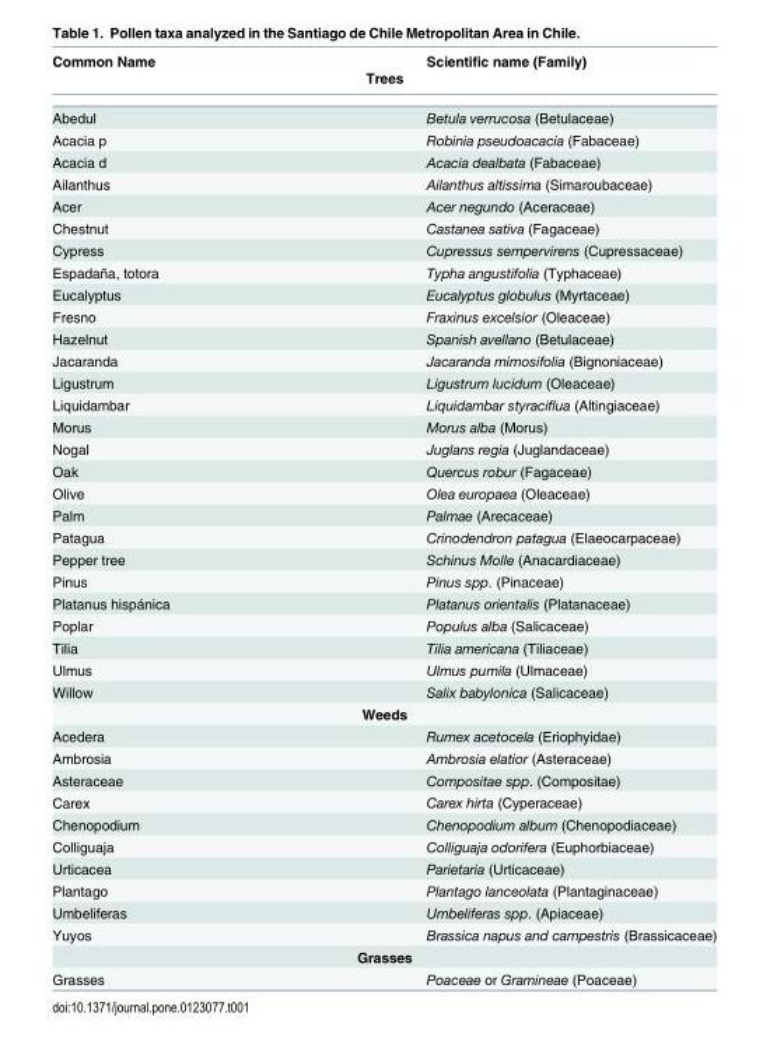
<table><thead><tr><td>Common Name</td><td>Scientific name (Family)</td></tr><tr><td colspan="2">Trees</td></tr></thead><tbody><tr><td>Abedul</td><td>Betula verrucosa (Betulaceae)</td></tr><tr><td>Acacia p</td><td>Robinia pseudoacacia (Fabaceae)</td></tr><tr><td>Acacia d</td><td>Acacia dealbata (Fabaceae)</td></tr><tr><td>Ailanthus</td><td>Ailanthus altissima (Simaroubaceae)</td></tr><tr><td>Acer</td><td>Acer negundo (Aceraceae)</td></tr><tr><td>Chestnut</td><td>Castanea sativa (Fagaceae)</td></tr><tr><td>Cypress</td><td>Cupressus sempervirens (Cupressaceae)</td></tr><tr><td>Espadaña, totora</td><td>Typha angustifolia (Typhaceae)</td></tr><tr><td>Eucalyptus</td><td>Eucalyptus globulus (Myrtaceae)</td></tr><tr><td>Fresno</td><td>Fraxinus excelsior (Oleaceae)</td></tr><tr><td>Hazelnut</td><td>Spanish avellano (Betulaceae)</td></tr><tr><td>Jacaranda</td><td>Jacaranda mimosifolia (Bignoniaceae)</td></tr><tr><td>Ligustrum</td><td>Ligustrum lucidum (Oleaceae)</td></tr><tr><td>Liquidambar</td><td>Liquidambar styraciflua (Altingiaceae)</td></tr><tr><td>Morus</td><td>Morus alba (Morus)</td></tr><tr><td>Nogal</td><td>Juglans regia (Juglandaceae)</td></tr><tr><td>Oak</td><td>Quercus robur (Fagaceae)</td></tr><tr><td>Olive</td><td>Olea europaea (Oleaceae)</td></tr><tr><td>Palm</td><td>Palmae (Arecaceae)</td></tr><tr><td>Patagua</td><td>Crinodendron patagua (Elaeocarpaceae)</td></tr><tr><td>Pepper tree</td><td>Schinus Molle (Anacardiaceae)</td></tr><tr><td>Pinus</td><td>Pinus spp. (Pinaceae)</td></tr><tr><td>Platanus hispánica</td><td>Platanus orientalis (Platanaceae)</td></tr><tr><td>Poplar</td><td>Populus alba (Salicaceae)</td></tr><tr><td>Tilia</td><td>Tilia americana (Tiliaceae)</td></tr><tr><td>Ulmus</td><td>Ulmus pumila (Ulmaceae)</td></tr><tr><td>Willow</td><td>Salix babylonica (Salicaceae)</td></tr><tr><td colspan="2">Weeds</td></tr><tr><td>Acedera</td><td>Rumex acetocela (Eriophyidae)</td></tr><tr><td>Ambrosia</td><td>Ambrosia elatior (Asteraceae)</td></tr><tr><td>Asteraceae</td><td>Compositae spp. (Compositae)</td></tr><tr><td>Carex</td><td>Carex hirta (Cyperaceae)</td></tr><tr><td>Chenopodium</td><td>Chenopodium album (Chenopodiaceae)</td></tr><tr><td>Colliguaja</td><td>Colliguaja odorifera (Euphorbiaceae)</td></tr><tr><td>Urticacea</td><td>Parietaria (Urticaceae)</td></tr><tr><td>Plantago</td><td>Plantago lanceolata (Plantaginaceae)</td></tr><tr><td>Umbeliferas</td><td>Umbeliferas spp. (Apiaceae)</td></tr><tr><td>Yuyos</td><td>Brassica napus and campestris (Brassicaceae)</td></tr><tr><td colspan="2">Grasses</td></tr><tr><td>Grasses</td><td>Poaceae or Gramineae (Poaceae)</td></tr></tbody></table>